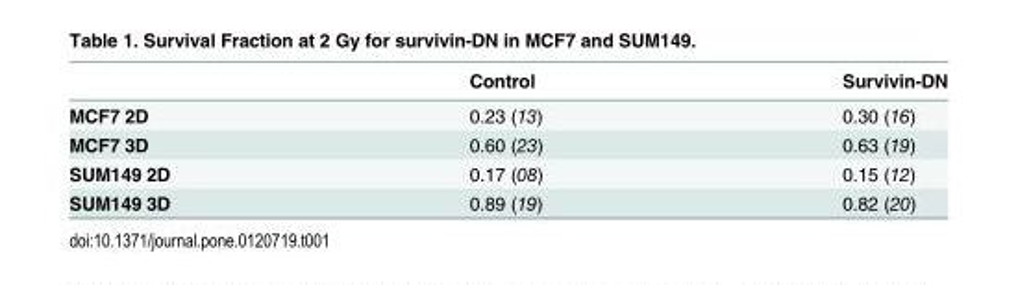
<table><thead><tr><td></td><td>Control</td><td>Survivin-DN</td></tr></thead><tbody><tr><td>MCF7 2D</td><td>0.23 (13)</td><td>0.30 (16)</td></tr><tr><td>MCF7 3D</td><td>0.60 (23)</td><td>0.63 (19)</td></tr><tr><td>SUM149 2D</td><td>0.17 (08)</td><td>0.15 (12)</td></tr><tr><td>SUM149 3D</td><td>0.89 (19)</td><td>0.82 (20)</td></tr></tbody></table>